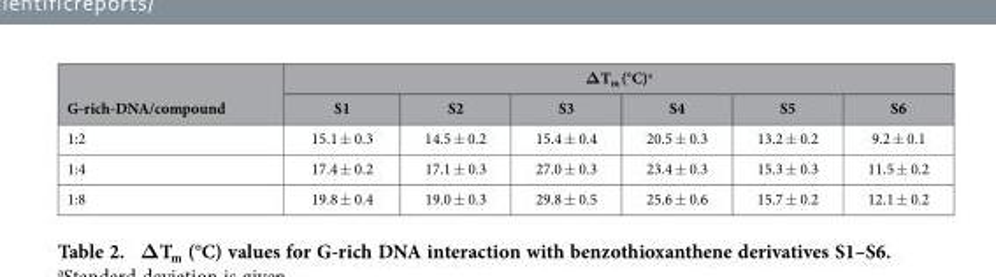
<table><thead><tr><td rowspan="2">G-rich-DNA/compound</td><td colspan="6">ΔT<sub>m</sub> (°C)<sup>a</sup></td></tr><tr><td>S1</td><td>S2</td><td>S3</td><td>S4</td><td>S5</td><td>S6</td></tr></thead><tbody><tr><td>1:2</td><td>15.1 ± 0.3</td><td>14.5 ± 0.2</td><td>15.4 ± 0.4</td><td>20.5 ± 0.3</td><td>13.2 ± 0.2</td><td>9.2 ± 0.1</td></tr><tr><td>1:4</td><td>17.4 ± 0.2</td><td>17.1 ± 0.3</td><td>27.0 ± 0.3</td><td>23.4 ± 0.3</td><td>15.3 ± 0.3</td><td>11.5 ± 0.2</td></tr><tr><td>1:8</td><td>19.8 ± 0.4</td><td>19.0 ± 0.3</td><td>29.8 ± 0.5</td><td>25.6 ± 0.6</td><td>15.7 ± 0.2</td><td>12.1 ± 0.2</td></tr></tbody></table>